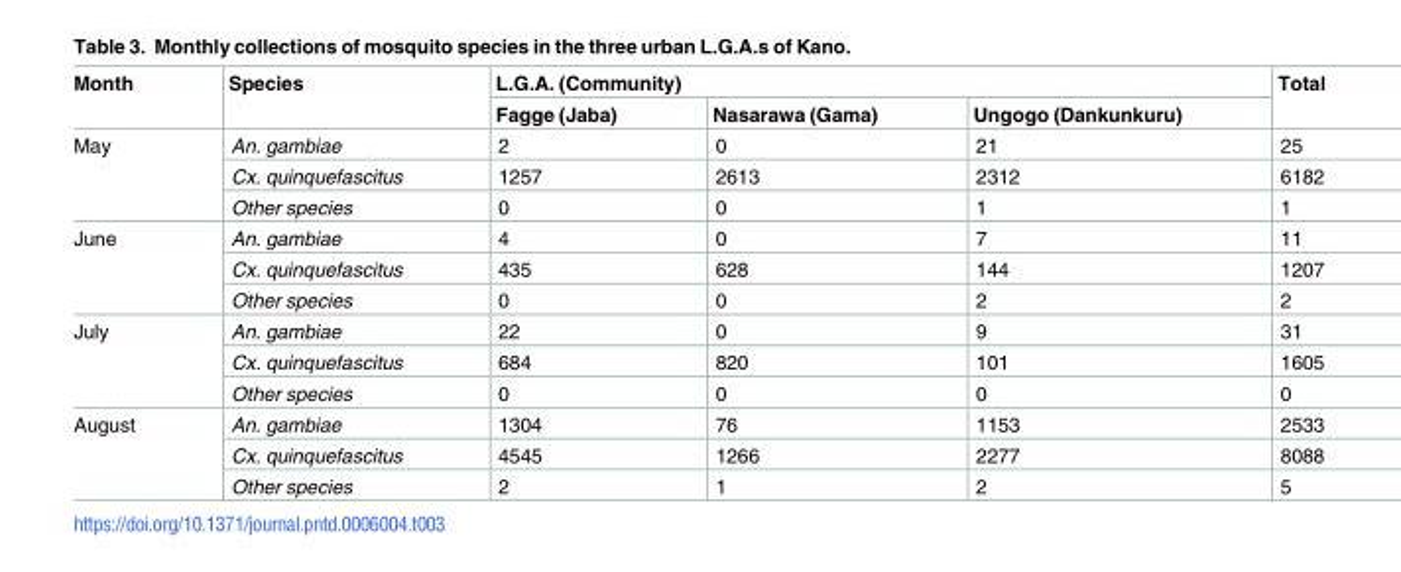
<table><thead><tr><td rowspan="2">Month</td><td rowspan="2">Species</td><td colspan="3">L.G.A. (Community)</td><td rowspan="2">Total</td></tr><tr><td>Fagge (Jaba)</td><td>Nasarawa (Gama)</td><td>Ungogo (Dankunkuru)</td></tr></thead><tbody><tr><td rowspan="3">May</td><td>An. gambiae</td><td>2</td><td>0</td><td>21</td><td>25</td></tr><tr><td>Cx. quinquefascitus</td><td>1257</td><td>2613</td><td>2312</td><td>6182</td></tr><tr><td>Other species</td><td>0</td><td>0</td><td>1</td><td>1</td></tr><tr><td rowspan="3">June</td><td>An. gambiae</td><td>4</td><td>0</td><td>7</td><td>11</td></tr><tr><td>Cx. quinquefascitus</td><td>435</td><td>628</td><td>144</td><td>1207</td></tr><tr><td>Other species</td><td>0</td><td>0</td><td>2</td><td>2</td></tr><tr><td rowspan="3">July</td><td>An. gambiae</td><td>22</td><td>0</td><td>9</td><td>31</td></tr><tr><td>Cx. quinquefascitus</td><td>684</td><td>820</td><td>101</td><td>1605</td></tr><tr><td>Other species</td><td>0</td><td>0</td><td>0</td><td>0</td></tr><tr><td rowspan="3">August</td><td>An. gambiae</td><td>1304</td><td>76</td><td>1153</td><td>2533</td></tr><tr><td>Cx. quinquefascitus</td><td>4545</td><td>1266</td><td>2277</td><td>8088</td></tr><tr><td>Other species</td><td>2</td><td>1</td><td>2</td><td>5</td></tr></tbody></table>